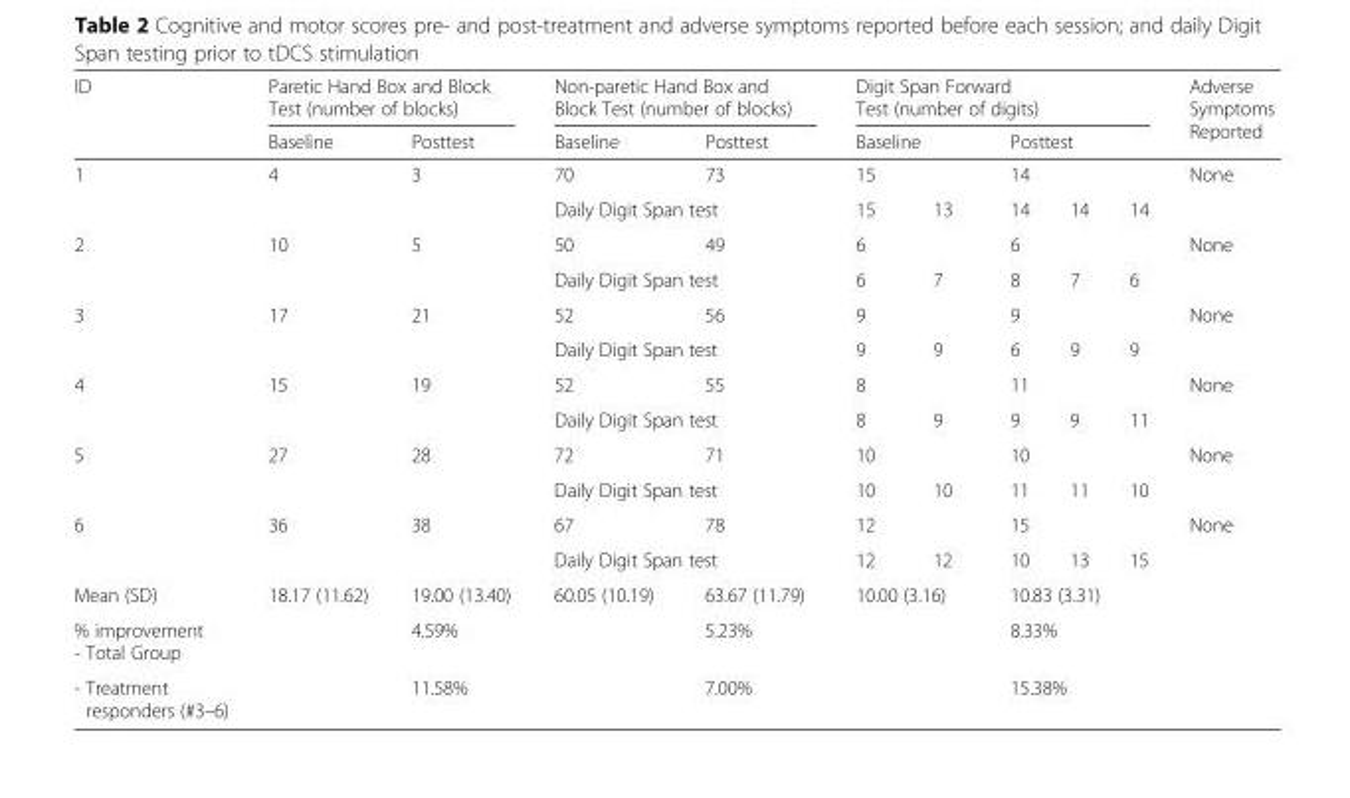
<table><thead><tr><td rowspan="4">ID 1</td><td colspan="2">Paretic Hand Box and Block Test (number of blocks)</td><td colspan="2">Non-paretic Hand Box and Block Test (number of blocks)</td><td colspan="5">Digit Span Forward Test (number of digits)</td><td rowspan="4">Adverse Symptoms Reported None</td></tr><tr><td rowspan="3">Baseline 4</td><td rowspan="3">Posttest 3</td><td rowspan="2">Baseline 70</td><td rowspan="2">Posttest 73</td><td rowspan="2" colspan="2">Baseline 15</td><td rowspan="2" colspan="3">Posttest 14</td></tr><tr></tr><tr><td colspan="2">Daily Digit Span test</td><td>15</td><td>13</td><td>14</td><td>14</td><td>14</td></tr></thead><tbody><tr><td rowspan="2">2</td><td>10</td><td>5</td><td>50</td><td>49</td><td colspan="2">6</td><td colspan="3">6</td><td>None</td></tr><tr><td></td><td></td><td colspan="2">Daily Digit Span test</td><td>6</td><td>7</td><td>8</td><td>7</td><td>6</td><td></td></tr><tr><td rowspan="2">3</td><td>17</td><td>21</td><td>52</td><td>56</td><td colspan="2">9</td><td colspan="3">9</td><td>None</td></tr><tr><td></td><td></td><td colspan="2">Daily Digit Span test</td><td>9</td><td>9</td><td>6</td><td>9</td><td>9</td><td></td></tr><tr><td rowspan="2">4</td><td>15</td><td>19</td><td>52</td><td>55</td><td colspan="2">8</td><td colspan="3">11</td><td>None</td></tr><tr><td></td><td></td><td colspan="2">Daily Digit Span test</td><td>8</td><td>9</td><td>9</td><td>9</td><td>11</td><td></td></tr><tr><td rowspan="2">5</td><td>27</td><td>28</td><td>72</td><td>71</td><td colspan="2">10</td><td colspan="3">10</td><td>None</td></tr><tr><td></td><td></td><td colspan="2">Daily Digit Span test</td><td>10</td><td>10</td><td>11</td><td>11</td><td>10</td><td></td></tr><tr><td rowspan="2">6</td><td>36</td><td>38</td><td>67</td><td>78</td><td colspan="2">12</td><td colspan="3">15</td><td>None</td></tr><tr><td></td><td></td><td colspan="2">Daily Digit Span test</td><td>12</td><td>12</td><td>10</td><td>13</td><td>15</td><td></td></tr><tr><td>Mean (SD)</td><td>18.17 (11.62)</td><td>19.00 (13.40)</td><td>60.05 (10.19)</td><td>63.67 (11.79)</td><td colspan="2">10.00 (3.16)</td><td colspan="3">10.83 (3.31)</td><td></td></tr><tr><td>% improvement - Total Group</td><td></td><td>4.59%</td><td></td><td>5.23%</td><td colspan="2"></td><td colspan="3">8.33%</td><td></td></tr><tr><td>- Treatment responders (#3–6)</td><td></td><td>11.58%</td><td></td><td>7.00%</td><td colspan="2"></td><td colspan="3">15.38%</td><td></td></tr></tbody></table>